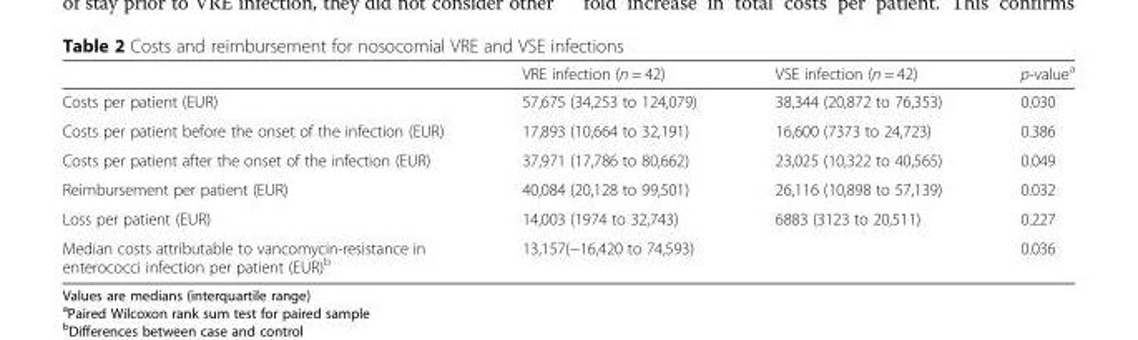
<table><thead><tr><td></td><td>VRE infection (n = 42)</td><td>VSE infection (n = 42)</td><td>p-value<sup>a</sup></td></tr></thead><tbody><tr><td>Costs per patient (EUR)</td><td>57,675 (34,253 to 124,079)</td><td>38,344 (20,872 to 76,353)</td><td>0.030</td></tr><tr><td>Costs per patient before the onset of the infection (EUR)</td><td>17,893 (10,664 to 32,191)</td><td>16,600 (7373 to 24,723)</td><td>0.386</td></tr><tr><td>Costs per patient after the onset of the infection (EUR)</td><td>37,971 (17,786 to 80,662)</td><td>23,025 (10,322 to 40,565)</td><td>0.049</td></tr><tr><td>Reimbursement per patient (EUR)</td><td>40,084 (20,128 to 99,501)</td><td>26,116 (10,898 to 57,139)</td><td>0.032</td></tr><tr><td>Loss per patient (EUR)</td><td>14,003 (1974 to 32,743)</td><td>6883 (3123 to 20,511)</td><td>0.227</td></tr><tr><td>Median costs attributable to vancomycin-resistance in enterococci infection per patient (EUR)<sup>b</sup></td><td colspan="2">13,157(−16,420 to 74,593)</td><td>0.036</td></tr></tbody></table>